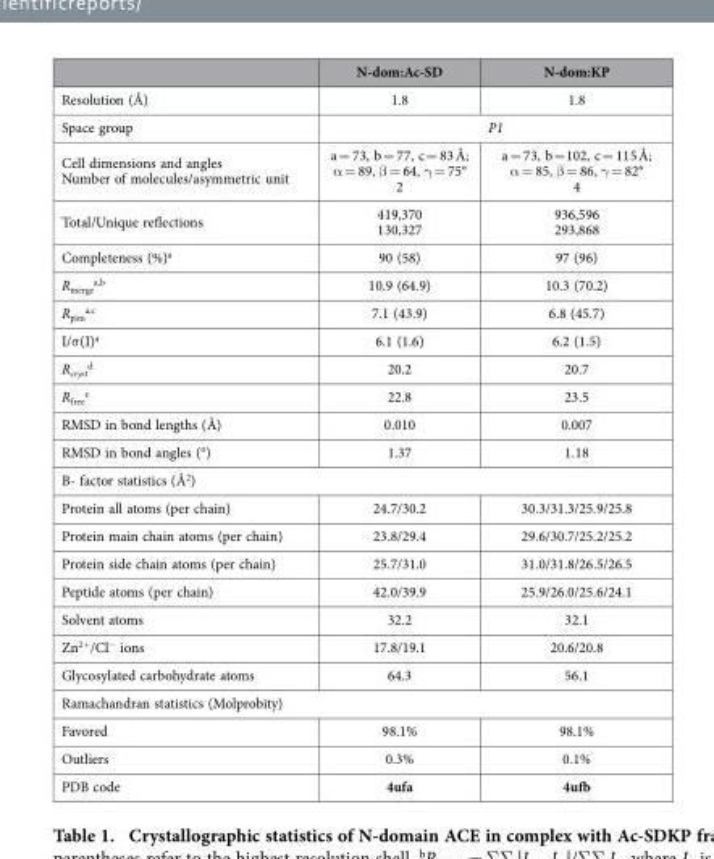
<table><thead><tr><td></td><td>N-dom:Ac-SD</td><td>N-dom:KP</td></tr></thead><tbody><tr><td>Resolution (Å)</td><td>1.8</td><td>1.8</td></tr><tr><td>Space group</td><td colspan="2">P1</td></tr><tr><td>Cell dimensions and angles Number of molecules/asymmetric unit</td><td>a = 73, b = 77, c = 83 Å; α = 89, β = 64, γ = 75° 2</td><td>a = 73, b = 102, c = 115 Å; α = 85, β = 86, γ = 82° 4</td></tr><tr><td>Total/Unique reflections</td><td>419,370 130,327</td><td>936,596 293,868</td></tr><tr><td>Completeness (%)<sup>a</sup></td><td>90 (58)</td><td>97 (96)</td></tr><tr><td>R<sub>merge</sub> <sup>a,b</sup></td><td>10.9 (64.9)</td><td>10.3 (70.2)</td></tr><tr><td>R<sub>pim</sub> <sup>a,c</sup></td><td>7.1 (43.9)</td><td>6.8 (45.7)</td></tr><tr><td>I/σ (I)<sup>a</sup></td><td>6.1 (1.6)</td><td>6.2 (1.5)</td></tr><tr><td>R<sub>cryst</sub> <sup>d</sup></td><td>20.2</td><td>20.7</td></tr><tr><td>R<sub>free</sub> <sup>e</sup></td><td>22.8</td><td>23.5</td></tr><tr><td>RMSD in bond lengths (Å)</td><td>0.010</td><td>0.007</td></tr><tr><td>RMSD in bond angles (°)</td><td>1.37</td><td>1.18</td></tr><tr><td colspan="3">B- factor statistics (Å<sup>2</sup>)</td></tr><tr><td>Protein all atoms (per chain)</td><td>24.7/30.2</td><td>30.3/31.3/25.9/25.8</td></tr><tr><td>Protein main chain atoms (per chain)</td><td>23.8/29.4</td><td>29.6/30.7/25.2/25.2</td></tr><tr><td>Protein side chain atoms (per chain)</td><td>25.7/31.0</td><td>31.0/31.8/26.5/26.5</td></tr><tr><td>Peptide atoms (per chain)</td><td>42.0/39.9</td><td>25.9/26.0/25.6/24.1</td></tr><tr><td>Solvent atoms</td><td>32.2</td><td>32.1</td></tr><tr><td>Zn<sup>2+</sup>/Cl<sup>−</sup> ions</td><td>17.8/19.1</td><td>20.6/20.8</td></tr><tr><td>Glycosylated carbohydrate atoms</td><td>64.3</td><td>56.1</td></tr><tr><td colspan="3">Ramachandran statistics (Molprobity)</td></tr><tr><td>Favored</td><td>98.1%</td><td>98.1%</td></tr><tr><td>Outliers</td><td>0.3%</td><td>0.1%</td></tr><tr><td>PDB code</td><td>4ufa</td><td>4ufb</td></tr></tbody></table>